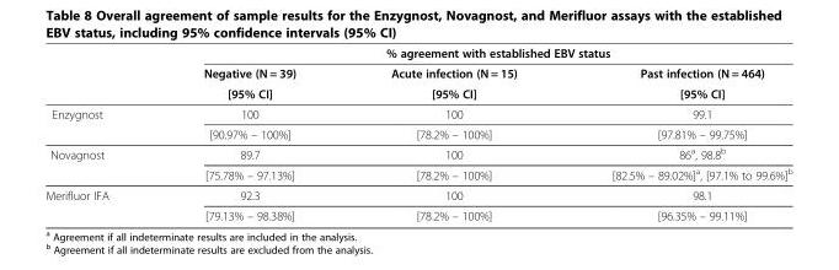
<table><thead><tr><td rowspan="3"></td><td colspan="3">% agreement with established EBV status</td></tr><tr><td rowspan="2">Negative (N = 39) [95% CI]</td><td rowspan="2">Acute infection (N = 15) [95% CI]</td><td rowspan="2">Past infection (N = 464) [95% CI]</td></tr><tr></tr></thead><tbody><tr><td rowspan="2">Enzygnost</td><td>100</td><td>100</td><td>99.1</td></tr><tr><td>[90.97% – 100%]</td><td>[78.2% – 100%]</td><td>[97.81% – 99.75%]</td></tr><tr><td rowspan="2">Novagnost</td><td>89.7</td><td>100</td><td>86<sup>a</sup>, 98.8<sup>b</sup></td></tr><tr><td>[75.78% – 97.13%]</td><td>[78.2% – 100%]</td><td>[82.5% – 89.02%]<sup>a</sup>, [97.1% to 99.6%]<sup>b</sup></td></tr><tr><td rowspan="2">Merifluor IFA</td><td>92.3</td><td>100</td><td>98.1</td></tr><tr><td>[79.13% – 98.38%]</td><td>[78.2% – 100%]</td><td>[96.35% – 99.11%]</td></tr></tbody></table>